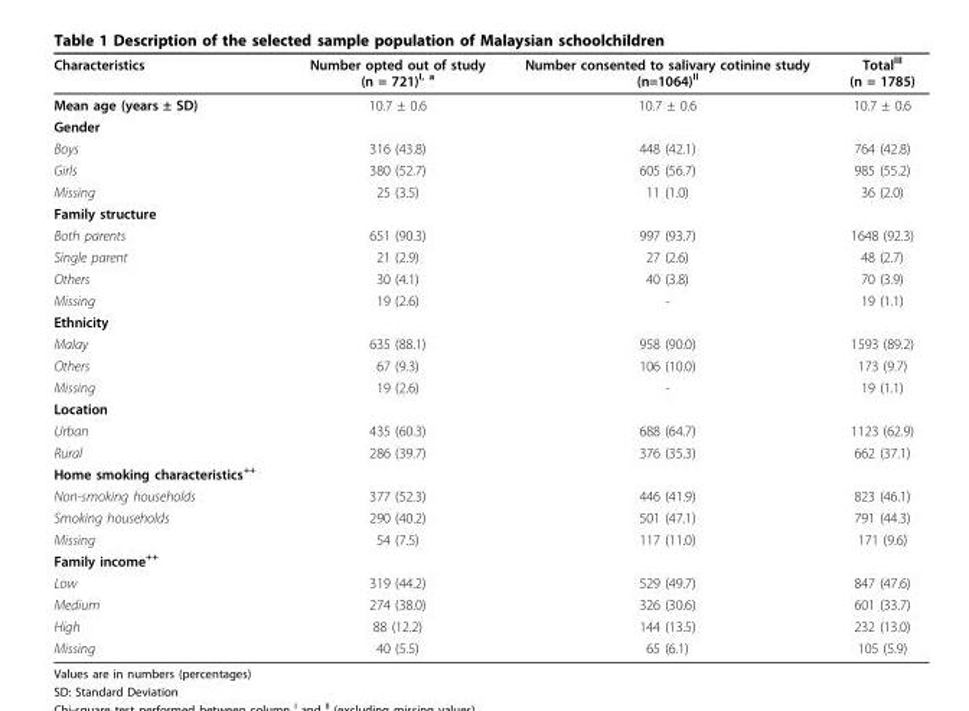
<table><thead><tr><td>Characteristics</td><td>Number opted out of study (n = 721)<sup>I, a</sup></td><td>Number consented to salivary cotinine study (n=1064)<sup>II</sup></td><td>Total<sup>III</sup> (n = 1785)</td></tr></thead><tbody><tr><td>Mean age (years ± SD)</td><td>10.7 ± 0.6</td><td>10.7 ± 0.6</td><td>10.7 ± 0.6</td></tr><tr><td colspan="4">Gender</td></tr><tr><td>Boys</td><td>316 (43.8)</td><td>448 (42.1)</td><td>764 (42.8)</td></tr><tr><td>Girls</td><td>380 (52.7)</td><td>605 (56.7)</td><td>985 (55.2)</td></tr><tr><td>Missing</td><td>25 (3.5)</td><td>11 (1.0)</td><td>36 (2.0)</td></tr><tr><td colspan="4">Family structure</td></tr><tr><td>Both parents</td><td>651 (90.3)</td><td>997 (93.7)</td><td>1648 (92.3)</td></tr><tr><td>Single parent</td><td>21 (2.9)</td><td>27 (2.6)</td><td>48 (2.7)</td></tr><tr><td>Others</td><td>30 (4.1)</td><td>40 (3.8)</td><td>70 (3.9)</td></tr><tr><td>Missing</td><td>19 (2.6)</td><td>-</td><td>19 (1.1)</td></tr><tr><td colspan="4">Ethnicity</td></tr><tr><td>Malay</td><td>635 (88.1)</td><td>958 (90.0)</td><td>1593 (89.2)</td></tr><tr><td>Others</td><td>67 (9.3)</td><td>106 (10.0)</td><td>173 (9.7)</td></tr><tr><td>Missing</td><td>19 (2.6)</td><td>-</td><td>19 (1.1)</td></tr><tr><td colspan="4">Location</td></tr><tr><td>Urban</td><td>435 (60.3)</td><td>688 (64.7)</td><td>1123 (62.9)</td></tr><tr><td>Rural</td><td>286 (39.7)</td><td>376 (35.3)</td><td>662 (37.1)</td></tr><tr><td colspan="4">Home smoking characteristics<sup>++</sup></td></tr><tr><td>Non-smoking households</td><td>377 (52.3)</td><td>446 (41.9)</td><td>823 (46.1)</td></tr><tr><td>Smoking households</td><td>290 (40.2)</td><td>501 (47.1)</td><td>791 (44.3)</td></tr><tr><td>Missing</td><td>54 (7.5)</td><td>117 (11.0)</td><td>171 (9.6)</td></tr><tr><td colspan="4">Family income<sup>++</sup></td></tr><tr><td>Low</td><td>319 (44.2)</td><td>529 (49.7)</td><td>847 (47.6)</td></tr><tr><td>Medium</td><td>274 (38.0)</td><td>326 (30.6)</td><td>601 (33.7)</td></tr><tr><td>High</td><td>88 (12.2)</td><td>144 (13.5)</td><td>232 (13.0)</td></tr><tr><td>Missing</td><td>40 (5.5)</td><td>65 (6.1)</td><td>105 (5.9)</td></tr></tbody></table>